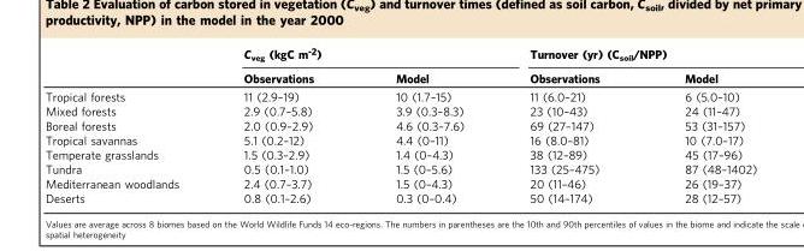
<table><thead><tr><td rowspan="2"></td><td colspan="2">C<sub>veg</sub> (kgC m<sup>-2</sup>)</td><td colspan="2">Turnover (yr) (C<sub>soil</sub>/NPP)</td></tr><tr><td>Observations</td><td>Model</td><td>Observations</td><td>Model</td></tr></thead><tbody><tr><td>Tropical forests</td><td>11 (2.9–19)</td><td>10 (1.7–15)</td><td>11 (6.0–21)</td><td>6 (5.0–10)</td></tr><tr><td>Mixed forests</td><td>2.9 (0.7–5.8)</td><td>3.9 (0.3–8.3)</td><td>23 (10–43)</td><td>24 (11–47)</td></tr><tr><td>Boreal forests</td><td>2.0 (0.9–2.9)</td><td>4.6 (0.3–7.6)</td><td>69 (27–147)</td><td>53 (31–157)</td></tr><tr><td>Tropical savannas</td><td>5.1 (0.2–12)</td><td>4.4 (0–11)</td><td>16 (8.0–81)</td><td>10 (7.0–17)</td></tr><tr><td>Temperate grasslands</td><td>1.5 (0.3–2.9)</td><td>1.4 (0–4.3)</td><td>38 (12–89)</td><td>45 (17–96)</td></tr><tr><td>Tundra</td><td>0.5 (0.1–1.0)</td><td>1.5 (0–5.6)</td><td>133 (25–475)</td><td>87 (48–1402)</td></tr><tr><td>Mediterranean woodlands</td><td>2.4 (0.7–3.7)</td><td>1.5 (0–4.3)</td><td>20 (11–46)</td><td>26 (19–37)</td></tr><tr><td>Deserts</td><td>0.8 (0.1–2.6)</td><td>0.3 (0–0.4)</td><td>50 (14–174)</td><td>28 (12–57)</td></tr></tbody></table>